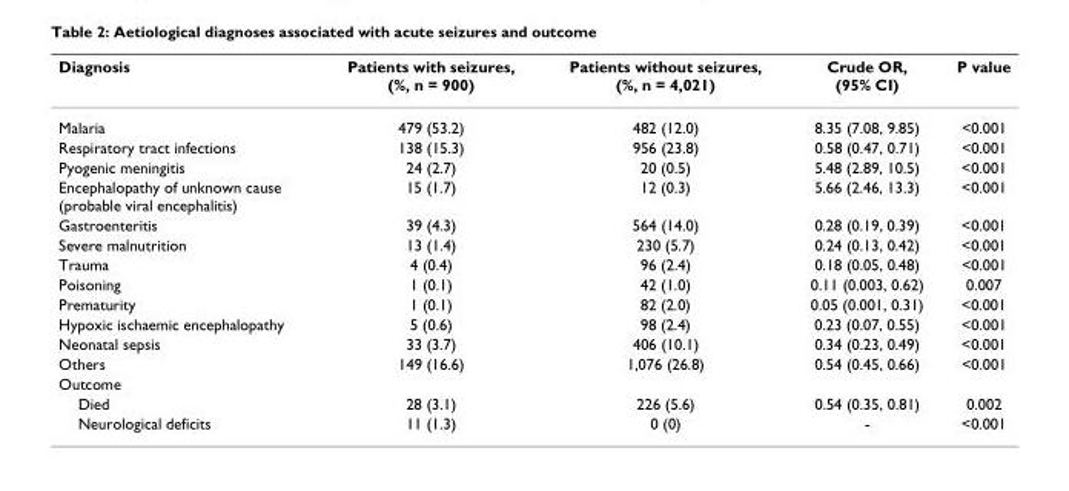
<table><thead><tr><td>Diagnosis</td><td>Patients with seizures, (%, n = 900)</td><td>Patients without seizures, (%, n = 4,021)</td><td>Crude OR, (95% CI)</td><td>P value</td></tr></thead><tbody><tr><td>Malaria</td><td>479 (53.2)</td><td>482 (12.0)</td><td>8.35 (7.08, 9.85)</td><td>&lt;0.001</td></tr><tr><td>Respiratory tract infections</td><td>138 (15.3)</td><td>956 (23.8)</td><td>0.58 (0.47, 0.71)</td><td>&lt;0.001</td></tr><tr><td>Pyogenic meningitis</td><td>24 (2.7)</td><td>20 (0.5)</td><td>5.48 (2.89, 10.5)</td><td>&lt;0.001</td></tr><tr><td>Encephalopathy of unknown cause (probable viral encephalitis)</td><td>15 (1.7)</td><td>12 (0.3)</td><td>5.66 (2.46, 13.3)</td><td>&lt;0.001</td></tr><tr><td>Gastroenteritis</td><td>39 (4.3)</td><td>564 (14.0)</td><td>0.28 (0.19, 0.39)</td><td>&lt;0.001</td></tr><tr><td>Severe malnutrition</td><td>13 (1.4)</td><td>230 (5.7)</td><td>0.24 (0.13, 0.42)</td><td>&lt;0.001</td></tr><tr><td>Trauma</td><td>4 (0.4)</td><td>96 (2.4)</td><td>0.18 (0.05, 0.48)</td><td>&lt;0.001</td></tr><tr><td>Poisoning</td><td>1 (0.1)</td><td>42 (1.0)</td><td>0.11 (0.003, 0.62)</td><td>0.007</td></tr><tr><td>Prematurity</td><td>1 (0.1)</td><td>82 (2.0)</td><td>0.05 (0.001, 0.31)</td><td>&lt;0.001</td></tr><tr><td>Hypoxic ischaemic encephalopathy</td><td>5 (0.6)</td><td>98 (2.4)</td><td>0.23 (0.07, 0.55)</td><td>&lt;0.001</td></tr><tr><td>Neonatal sepsis</td><td>33 (3.7)</td><td>406 (10.1)</td><td>0.34 (0.23, 0.49)</td><td>&lt;0.001</td></tr><tr><td>Others</td><td>149 (16.6)</td><td>1,076 (26.8)</td><td>0.54 (0.45, 0.66)</td><td>&lt;0.001</td></tr><tr><td colspan="5">Outcome</td></tr><tr><td>Died</td><td>28 (3.1)</td><td>226 (5.6)</td><td>0.54 (0.35, 0.81)</td><td>0.002</td></tr><tr><td>Neurological deficits</td><td>11 (1.3)</td><td>0 (0)</td><td>-</td><td>&lt;0.001</td></tr></tbody></table>